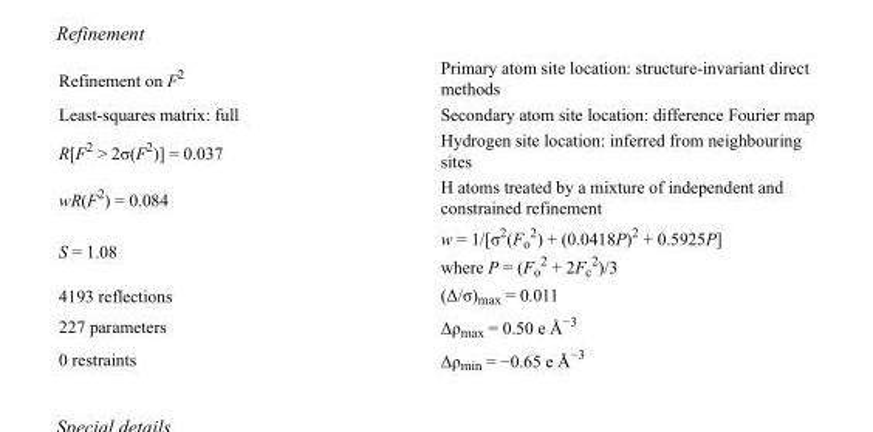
<table><tbody><tr><td>Refinement on F<sup>2</sup></td><td>Primary atom site location: structure-invariant direct methods</td></tr><tr><td>Least-squares matrix: full</td><td>Secondary atom site location: difference Fourier map</td></tr><tr><td>R[F<sup>2</sup> &gt; 2σ(F<sup>2</sup>)] = 0.037</td><td>Hydrogen site location: inferred from neighbouring sites</td></tr><tr><td>wR(F<sup>2</sup>) = 0.084</td><td>H atoms treated by a mixture of independent and constrained refinement</td></tr><tr><td>S = 1.08</td><td>w = 1/[σ<sup>2</sup>(F<sub>o</sub> <sup>2</sup>) + (0.0418P)<sup>2</sup> + 0.5925P] where P = (F<sub>o</sub> <sup>2</sup> + 2F<sub>c</sub> <sup>2</sup>)/3</td></tr><tr><td>4193 reflections</td><td>(Δ/σ)<sub>max</sub> = 0.011</td></tr><tr><td>227 parameters</td><td>Δρ<sub>max</sub> = 0.50 e Å<sup>−3</sup></td></tr><tr><td>0 restraints</td><td>Δρ<sub>min</sub> = −0.65 e Å<sup>−3</sup></td></tr></tbody></table>